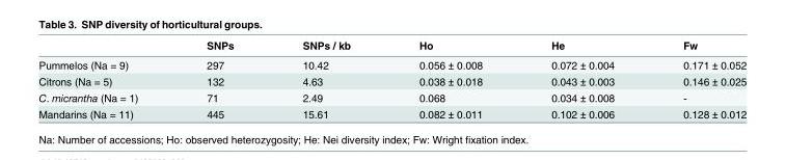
<table><thead><tr><td></td><td>SNPs</td><td>SNPs / kb</td><td>Ho</td><td>He</td><td>Fw</td></tr></thead><tbody><tr><td>Pummelos (Na = 9)</td><td>297</td><td>10.42</td><td>0.056 ± 0.008</td><td>0.072 ± 0.004</td><td>0.171 ± 0.052</td></tr><tr><td>Citrons (Na = 5)</td><td>132</td><td>4.63</td><td>0.038 ± 0.018</td><td>0.043 ± 0.003</td><td>0.146 ± 0.025</td></tr><tr><td>C. micrantha (Na = 1)</td><td>71</td><td>2.49</td><td>0.068</td><td>0.034 ± 0.008</td><td>-</td></tr><tr><td>Mandarins (Na = 11)</td><td>445</td><td>15.61</td><td>0.082 ± 0.011</td><td>0.102 ± 0.006</td><td>0.128 ± 0.012</td></tr></tbody></table>